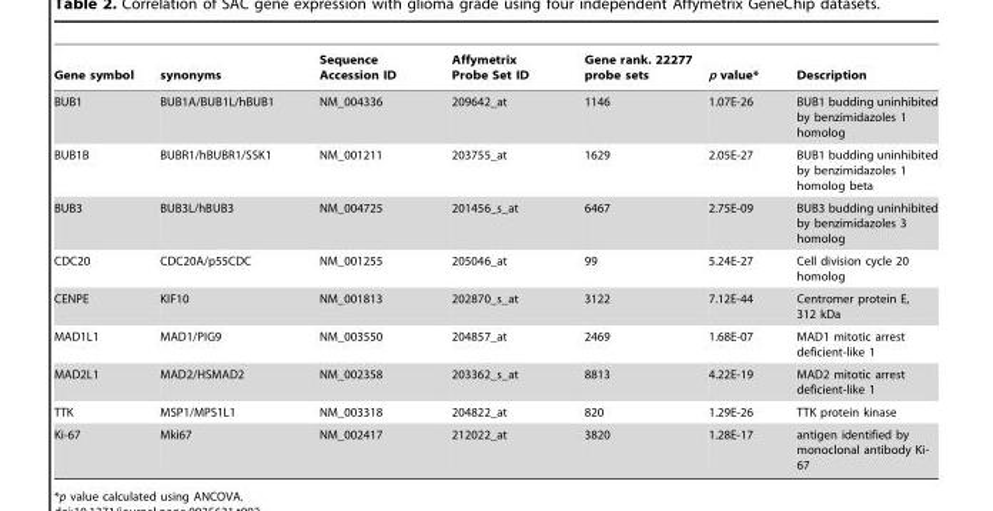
<table><thead><tr><td>Gene symbol</td><td>synonyms</td><td>Sequence Accession ID</td><td>Affymetrix Probe Set ID</td><td>Gene rank. 22277 probe sets</td><td>p value*</td><td>Description</td></tr></thead><tbody><tr><td>BUB1</td><td>BUB1A/BUB1L/hBUB1</td><td>NM_004336</td><td>209642_at</td><td>1146</td><td>1.07E-26</td><td>BUB1 budding uninhibited by benzimidazoles 1 homolog</td></tr><tr><td>BUB1B</td><td>BUBR1/hBUBR1/SSK1</td><td>NM_001211</td><td>203755_at</td><td>1629</td><td>2.05E-27</td><td>BUB1 budding uninhibited by benzimidazoles 1 homolog beta</td></tr><tr><td>BUB3</td><td>BUB3L/hBUB3</td><td>NM_004725</td><td>201456_s_at</td><td>6467</td><td>2.75E-09</td><td>BUB3 budding uninhibited by benzimidazoles 3 homolog</td></tr><tr><td>CDC20</td><td>CDC20A/p55CDC</td><td>NM_001255</td><td>205046_at</td><td>99</td><td>5.24E-27</td><td>Cell division cycle 20 homolog</td></tr><tr><td>CENPE</td><td>KIF10</td><td>NM_001813</td><td>202870_s_at</td><td>3122</td><td>7.12E-44</td><td>Centromer protein E, 312 kDa</td></tr><tr><td>MAD1L1</td><td>MAD1/PIG9</td><td>NM_003550</td><td>204857_at</td><td>2469</td><td>1.68E-07</td><td>MAD1 mitotic arrest deficient-like 1</td></tr><tr><td>MAD2L1</td><td>MAD2/HSMAD2</td><td>NM_002358</td><td>203362_s_at</td><td>8813</td><td>4.22E-19</td><td>MAD2 mitotic arrest deficient-like 1</td></tr><tr><td>TTK</td><td>MSP1/MPS1L1</td><td>NM_003318</td><td>204822_at</td><td>820</td><td>1.29E-26</td><td>TTK protein kinase</td></tr><tr><td>Ki-67</td><td>Mki67</td><td>NM_002417</td><td>212022_at</td><td>3820</td><td>1.28E-17</td><td>antigen identified by monoclonal antibody Ki-</td></tr></tbody></table>